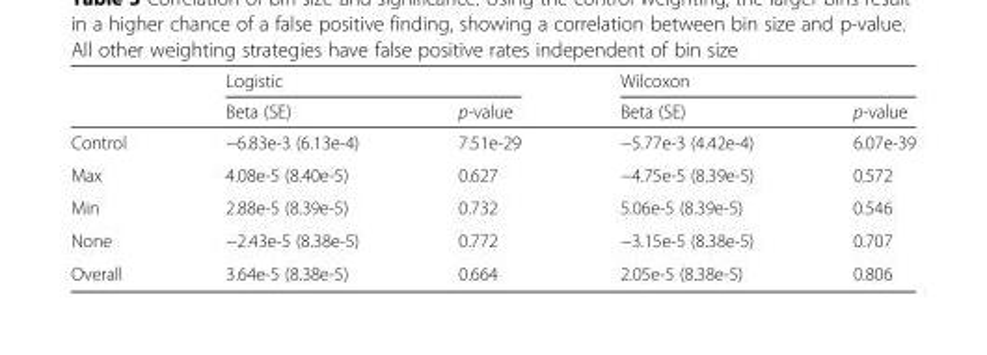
<table><thead><tr><td rowspan="2"></td><td colspan="2">Logistic</td><td colspan="2">Wilcoxon</td></tr><tr><td>Beta (SE)</td><td>p-value</td><td>Beta (SE)</td><td>p-value</td></tr></thead><tbody><tr><td>Control</td><td>−6.83e-3 (6.13e-4)</td><td>7.51e-29</td><td>−5.77e-3 (4.42e-4)</td><td>6.07e-39</td></tr><tr><td>Max</td><td>4.08e-5 (8.40e-5)</td><td>0.627</td><td>−4.75e-5 (8.39e-5)</td><td>0.572</td></tr><tr><td>Min</td><td>2.88e-5 (8.39e-5)</td><td>0.732</td><td>5.06e-5 (8.39e-5)</td><td>0.546</td></tr><tr><td>None</td><td>−2.43e-5 (8.38e-5)</td><td>0.772</td><td>−3.15e-5 (8.38e-5)</td><td>0.707</td></tr><tr><td>Overall</td><td>3.64e-5 (8.38e-5)</td><td>0.664</td><td>2.05e-5 (8.38e-5)</td><td>0.806</td></tr></tbody></table>